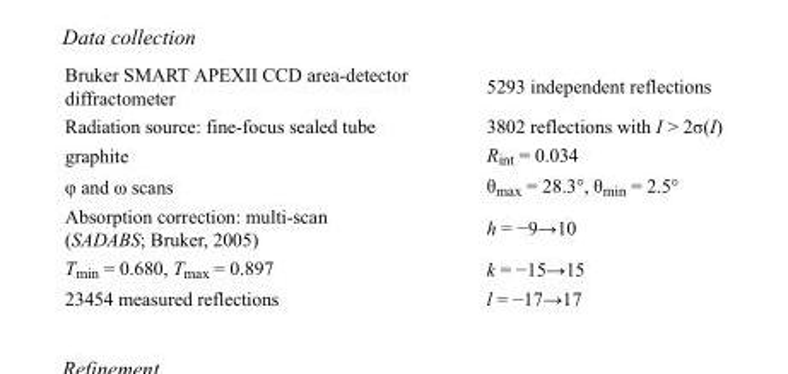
<table><tbody><tr><td>Bruker SMART APEXII CCD area-detector diffractometer</td><td>5293 independent reflections</td></tr><tr><td>Radiation source: fine-focus sealed tube</td><td>3802 reflections with I &gt; 2σ(I)</td></tr><tr><td>graphite</td><td>R<sub>int</sub> = 0.034</td></tr><tr><td>φ and ω scans</td><td>θ<sub>max</sub> = 28.3°, θ<sub>min</sub> = 2.5°</td></tr><tr><td>Absorption correction: multi-scan (SADABS; Bruker, 2005)</td><td>h = −9→10</td></tr><tr><td>T<sub>min</sub> = 0.680, T<sub>max</sub> = 0.897</td><td>k = −15→15</td></tr><tr><td>23454 measured reflections</td><td>l = −17→17</td></tr></tbody></table>